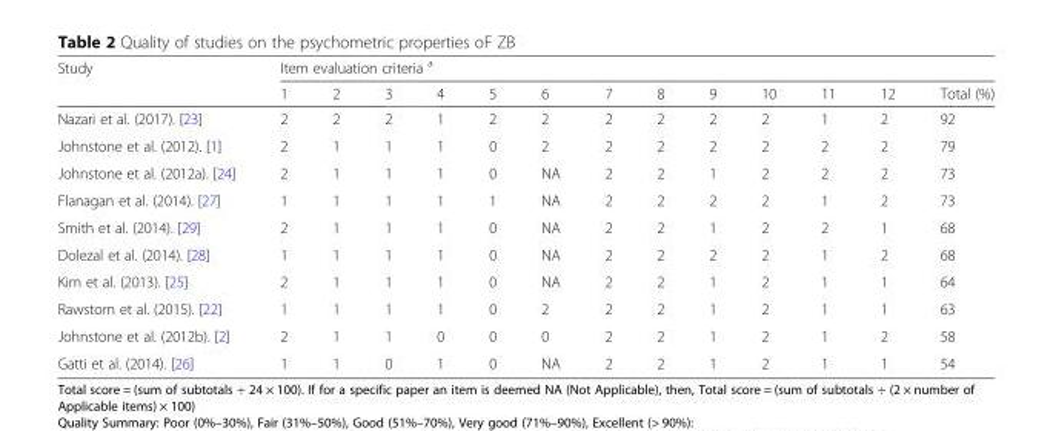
<table><thead><tr><td rowspan="2">Study</td><td colspan="13">Item evaluation criteria <sup>a</sup></td></tr><tr><td>1</td><td>2</td><td>3</td><td>4</td><td>5</td><td>6</td><td>7</td><td>8</td><td>9</td><td>10</td><td>11</td><td>12</td><td>Total (%)</td></tr></thead><tbody><tr><td>Nazari et al. (2017). [23]</td><td>2</td><td>2</td><td>2</td><td>1</td><td>2</td><td>2</td><td>2</td><td>2</td><td>2</td><td>2</td><td>1</td><td>2</td><td>92</td></tr><tr><td>Johnstone et al. (2012). [1]</td><td>2</td><td>1</td><td>1</td><td>1</td><td>0</td><td>2</td><td>2</td><td>2</td><td>2</td><td>2</td><td>2</td><td>2</td><td>79</td></tr><tr><td>Johnstone et al. (2012a). [24]</td><td>2</td><td>1</td><td>1</td><td>1</td><td>0</td><td>NA</td><td>2</td><td>2</td><td>1</td><td>2</td><td>2</td><td>2</td><td>73</td></tr><tr><td>Flanagan et al. (2014). [27]</td><td>1</td><td>1</td><td>1</td><td>1</td><td>1</td><td>NA</td><td>2</td><td>2</td><td>2</td><td>2</td><td>1</td><td>2</td><td>73</td></tr><tr><td>Smith et al. (2014). [29]</td><td>2</td><td>1</td><td>1</td><td>1</td><td>0</td><td>NA</td><td>2</td><td>2</td><td>1</td><td>2</td><td>2</td><td>1</td><td>68</td></tr><tr><td>Dolezal et al. (2014). [28]</td><td>1</td><td>1</td><td>1</td><td>1</td><td>0</td><td>NA</td><td>2</td><td>2</td><td>2</td><td>2</td><td>1</td><td>2</td><td>68</td></tr><tr><td>Kim et al. (2013). [25]</td><td>2</td><td>1</td><td>1</td><td>1</td><td>0</td><td>NA</td><td>2</td><td>2</td><td>1</td><td>2</td><td>1</td><td>1</td><td>64</td></tr><tr><td>Rawstorn et al. (2015). [22]</td><td>1</td><td>1</td><td>1</td><td>1</td><td>0</td><td>2</td><td>2</td><td>2</td><td>1</td><td>2</td><td>1</td><td>1</td><td>63</td></tr><tr><td>Johnstone et al. (2012b). [2]</td><td>2</td><td>1</td><td>1</td><td>0</td><td>0</td><td>0</td><td>2</td><td>2</td><td>1</td><td>2</td><td>1</td><td>2</td><td>58</td></tr><tr><td>Gatti et al. (2014). [26]</td><td>1</td><td>1</td><td>0</td><td>1</td><td>0</td><td>NA</td><td>2</td><td>2</td><td>1</td><td>2</td><td>1</td><td>1</td><td>54</td></tr></tbody></table>